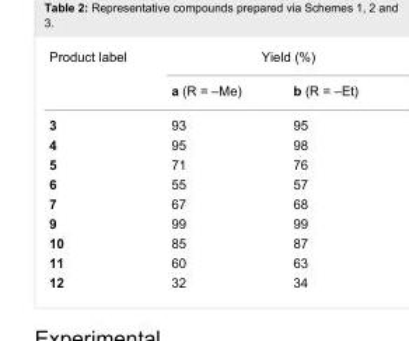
<table><tbody><tr><td rowspan="2">Product label</td><td colspan="2">Yield (%)</td></tr><tr><td>a (R = –Me)</td><td>b (R = –Et)</td></tr><tr><td>3</td><td>93</td><td>95</td></tr><tr><td>4</td><td>95</td><td>98</td></tr><tr><td>5</td><td>71</td><td>76</td></tr><tr><td>6</td><td>55</td><td>57</td></tr><tr><td>7</td><td>67</td><td>68</td></tr><tr><td>9</td><td>99</td><td>99</td></tr><tr><td>10</td><td>85</td><td>87</td></tr><tr><td>11</td><td>60</td><td>63</td></tr><tr><td>12</td><td>32</td><td>34</td></tr></tbody></table>